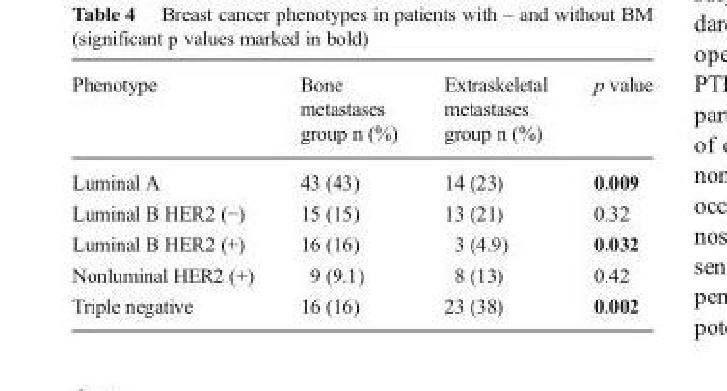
<table><thead><tr><td>Phenotype</td><td>Bone metastases group n (%)</td><td>Extraskeletal metastases group n (%)</td><td>p value</td></tr></thead><tbody><tr><td>Luminal A</td><td>43 (43)</td><td>14 (23)</td><td>0.009</td></tr><tr><td>Luminal B HER2 (−)</td><td>15 (15)</td><td>13 (21)</td><td>0.32</td></tr><tr><td>Luminal B HER2 (+)</td><td>16 (16)</td><td>3 (4.9)</td><td>0.032</td></tr><tr><td>Nonluminal HER2 (+)</td><td>9 (9.1)</td><td>8 (13)</td><td>0.42</td></tr><tr><td>Triple negative</td><td>16 (16)</td><td>23 (38)</td><td>0.002</td></tr></tbody></table>